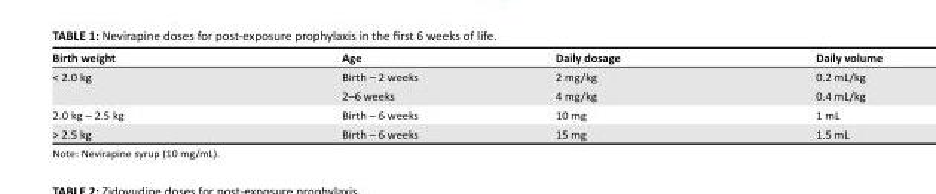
<table><thead><tr><td>Birth weight</td><td>Age</td><td>Daily dosage</td><td>Daily volume</td></tr></thead><tbody><tr><td rowspan="2">&lt; 2.0 kg</td><td>Birth – 2 weeks</td><td>2 mg/kg</td><td>0.2 mL/kg</td></tr><tr><td>2–6 weeks</td><td>4 mg/kg</td><td>0.4 mL/kg</td></tr><tr><td>2.0 kg – 2.5 kg</td><td>Birth – 6 weeks</td><td>10 mg</td><td>1 mL</td></tr><tr><td>&gt; 2.5 kg</td><td>Birth – 6 weeks</td><td>15 mg</td><td>1.5 mL</td></tr></tbody></table>